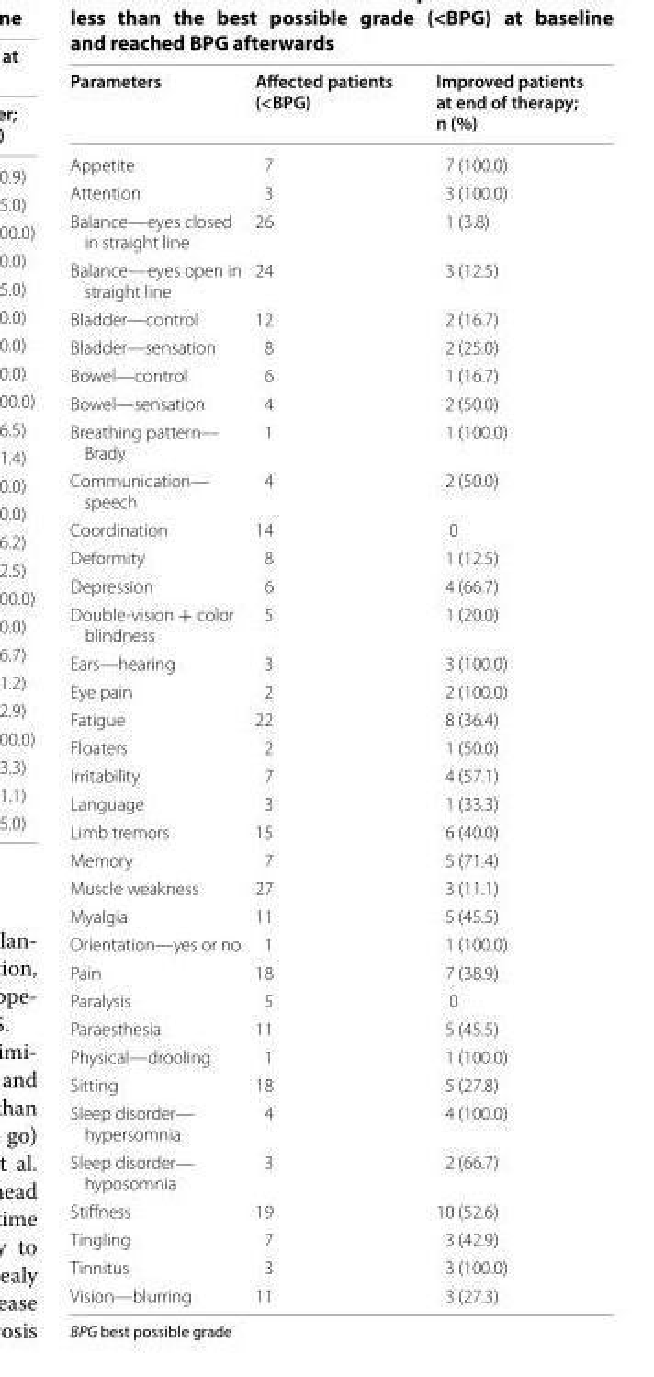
<table><thead><tr><td>Parameters</td><td>Affected patients (&lt;BPG)</td><td>Improved patients at end of therapy; n (%)</td></tr></thead><tbody><tr><td>Appetite</td><td>7</td><td>7 (100.0)</td></tr><tr><td>Attention</td><td>3</td><td>3 (100.0)</td></tr><tr><td>Balance—eyes closed in straight line</td><td>26</td><td>1 (3.8)</td></tr><tr><td>Balance—eyes open in straight line</td><td>24</td><td>3 (12.5)</td></tr><tr><td>Bladder—control</td><td>12</td><td>2 (16.7)</td></tr><tr><td>Bladder—sensation</td><td>8</td><td>2 (25.0)</td></tr><tr><td>Bowel—control</td><td>6</td><td>1 (16.7)</td></tr><tr><td>Bowel—sensation</td><td>4</td><td>2 (50.0)</td></tr><tr><td>Breathing pattern— Brady</td><td>1</td><td>1 (100.0)</td></tr><tr><td>Communication— speech</td><td>4</td><td>2 (50.0)</td></tr><tr><td>Coordination</td><td>14</td><td>0</td></tr><tr><td>Deformity</td><td>8</td><td>1 (12.5)</td></tr><tr><td>Depression</td><td>6</td><td>4 (66.7)</td></tr><tr><td>Double‑vision + color blindness</td><td>5</td><td>1 (20.0)</td></tr><tr><td>Ears—hearing</td><td>3</td><td>3 (100.0)</td></tr><tr><td>Eye pain</td><td>2</td><td>2 (100.0)</td></tr><tr><td>Fatigue</td><td>22</td><td>8 (36.4)</td></tr><tr><td>Floaters</td><td>2</td><td>1 (50.0)</td></tr><tr><td>Irritability</td><td>7</td><td>4 (57.1)</td></tr><tr><td>Language</td><td>3</td><td>1 (33.3)</td></tr><tr><td>Limb tremors</td><td>15</td><td>6 (40.0)</td></tr><tr><td>Memory</td><td>7</td><td>5 (71.4)</td></tr><tr><td>Muscle weakness</td><td>27</td><td>3 (11.1)</td></tr><tr><td>Myalgia</td><td>11</td><td>5 (45.5)</td></tr><tr><td>Orientation—yes or no</td><td>1</td><td>1 (100.0)</td></tr><tr><td>Pain</td><td>18</td><td>7 (38.9)</td></tr><tr><td>Paralysis</td><td>5</td><td>0</td></tr><tr><td>Paraesthesia</td><td>11</td><td>5 (45.5)</td></tr><tr><td>Physical—drooling</td><td>1</td><td>1 (100.0)</td></tr><tr><td>Sitting</td><td>18</td><td>5 (27.8)</td></tr><tr><td>Sleep disorder— hypersomnia</td><td>4</td><td>4 (100.0)</td></tr><tr><td>Sleep disorder— hyposomnia</td><td>3</td><td>2 (66.7)</td></tr><tr><td>Stiffness</td><td>19</td><td>10 (52.6)</td></tr><tr><td>Tingling</td><td>7</td><td>3 (42.9)</td></tr><tr><td>Tinnitus</td><td>3</td><td>3 (100.0)</td></tr><tr><td>Vision—blurring</td><td>11</td><td>3 (27.3)</td></tr></tbody></table>